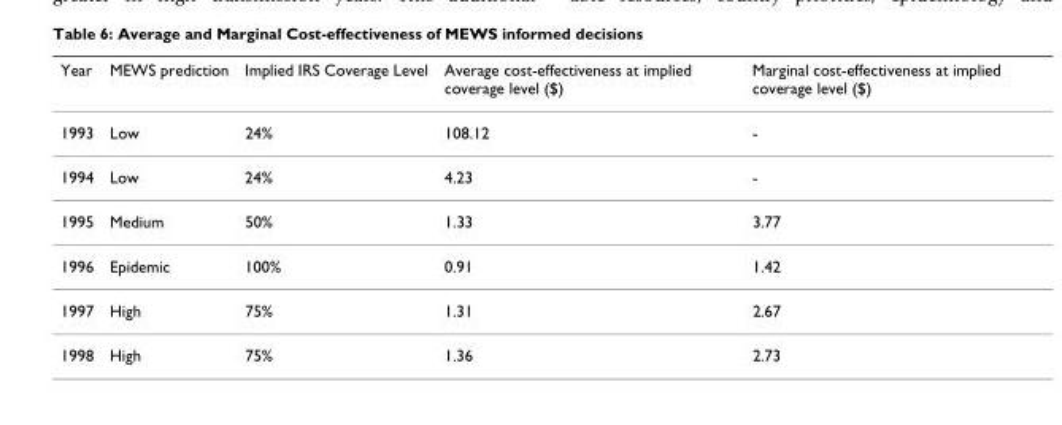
<table><thead><tr><td>Year</td><td>MEWS prediction</td><td>Implied IRS Coverage Level</td><td>Average cost-effectiveness at implied coverage level ($)</td><td>Marginal cost-effectiveness at implied coverage level ($)</td></tr></thead><tbody><tr><td>1993</td><td>Low</td><td>24%</td><td>108.12</td><td>-</td></tr><tr><td>1994</td><td>Low</td><td>24%</td><td>4.23</td><td>-</td></tr><tr><td>1995</td><td>Medium</td><td>50%</td><td>1.33</td><td>3.77</td></tr><tr><td>1996</td><td>Epidemic</td><td>100%</td><td>0.91</td><td>1.42</td></tr><tr><td>1997</td><td>High</td><td>75%</td><td>1.31</td><td>2.67</td></tr><tr><td>1998</td><td>High</td><td>75%</td><td>1.36</td><td>2.73</td></tr></tbody></table>